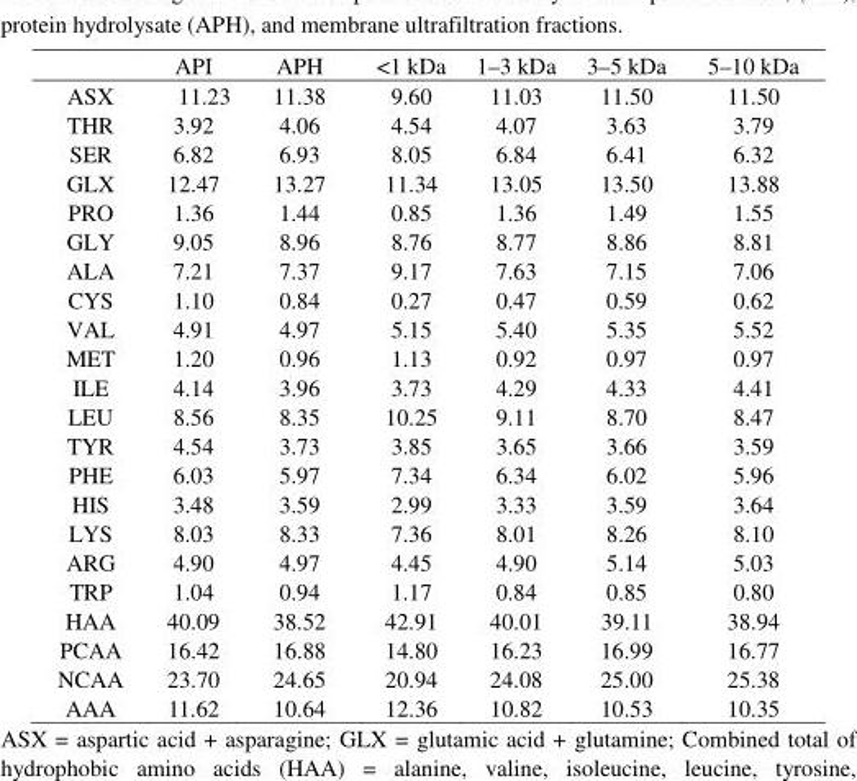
<table><thead><tr><td></td><td>API</td><td>APH</td><td>&lt;1 kDa</td><td>1–3 kDa</td><td>3–5 kDa</td><td>5–10 kDa</td></tr></thead><tbody><tr><td>ASX</td><td>11.23</td><td>11.38</td><td>9.60</td><td>11.03</td><td>11.50</td><td>11.50</td></tr><tr><td>THR</td><td>3.92</td><td>4.06</td><td>4.54</td><td>4.07</td><td>3.63</td><td>3.79</td></tr><tr><td>SER</td><td>6.82</td><td>6.93</td><td>8.05</td><td>6.84</td><td>6.41</td><td>6.32</td></tr><tr><td>GLX</td><td>12.47</td><td>13.27</td><td>11.34</td><td>13.05</td><td>13.50</td><td>13.88</td></tr><tr><td>PRO</td><td>1.36</td><td>1.44</td><td>0.85</td><td>1.36</td><td>1.49</td><td>1.55</td></tr><tr><td>GLY</td><td>9.05</td><td>8.96</td><td>8.76</td><td>8.77</td><td>8.86</td><td>8.81</td></tr><tr><td>ALA</td><td>7.21</td><td>7.37</td><td>9.17</td><td>7.63</td><td>7.15</td><td>7.06</td></tr><tr><td>CYS</td><td>1.10</td><td>0.84</td><td>0.27</td><td>0.47</td><td>0.59</td><td>0.62</td></tr><tr><td>VAL</td><td>4.91</td><td>4.97</td><td>5.15</td><td>5.40</td><td>5.35</td><td>5.52</td></tr><tr><td>MET</td><td>1.20</td><td>0.96</td><td>1.13</td><td>0.92</td><td>0.97</td><td>0.97</td></tr><tr><td>ILE</td><td>4.14</td><td>3.96</td><td>3.73</td><td>4.29</td><td>4.33</td><td>4.41</td></tr><tr><td>LEU</td><td>8.56</td><td>8.35</td><td>10.25</td><td>9.11</td><td>8.70</td><td>8.47</td></tr><tr><td>TYR</td><td>4.54</td><td>3.73</td><td>3.85</td><td>3.65</td><td>3.66</td><td>3.59</td></tr><tr><td>PHE</td><td>6.03</td><td>5.97</td><td>7.34</td><td>6.34</td><td>6.02</td><td>5.96</td></tr><tr><td>HIS</td><td>3.48</td><td>3.59</td><td>2.99</td><td>3.33</td><td>3.59</td><td>3.64</td></tr><tr><td>LYS</td><td>8.03</td><td>8.33</td><td>7.36</td><td>8.01</td><td>8.26</td><td>8.10</td></tr><tr><td>ARG</td><td>4.90</td><td>4.97</td><td>4.45</td><td>4.90</td><td>5.14</td><td>5.03</td></tr><tr><td>TRP</td><td>1.04</td><td>0.94</td><td>1.17</td><td>0.84</td><td>0.85</td><td>0.80</td></tr><tr><td>HAA</td><td>40.09</td><td>38.52</td><td>42.91</td><td>40.01</td><td>39.11</td><td>38.94</td></tr><tr><td>PCAA</td><td>16.42</td><td>16.88</td><td>14.80</td><td>16.23</td><td>16.99</td><td>16.77</td></tr><tr><td>NCAA</td><td>23.70</td><td>24.65</td><td>20.94</td><td>24.08</td><td>25.00</td><td>25.38</td></tr><tr><td>AAA</td><td>11.62</td><td>10.64</td><td>12.36</td><td>10.82</td><td>10.53</td><td>10.35</td></tr></tbody></table>